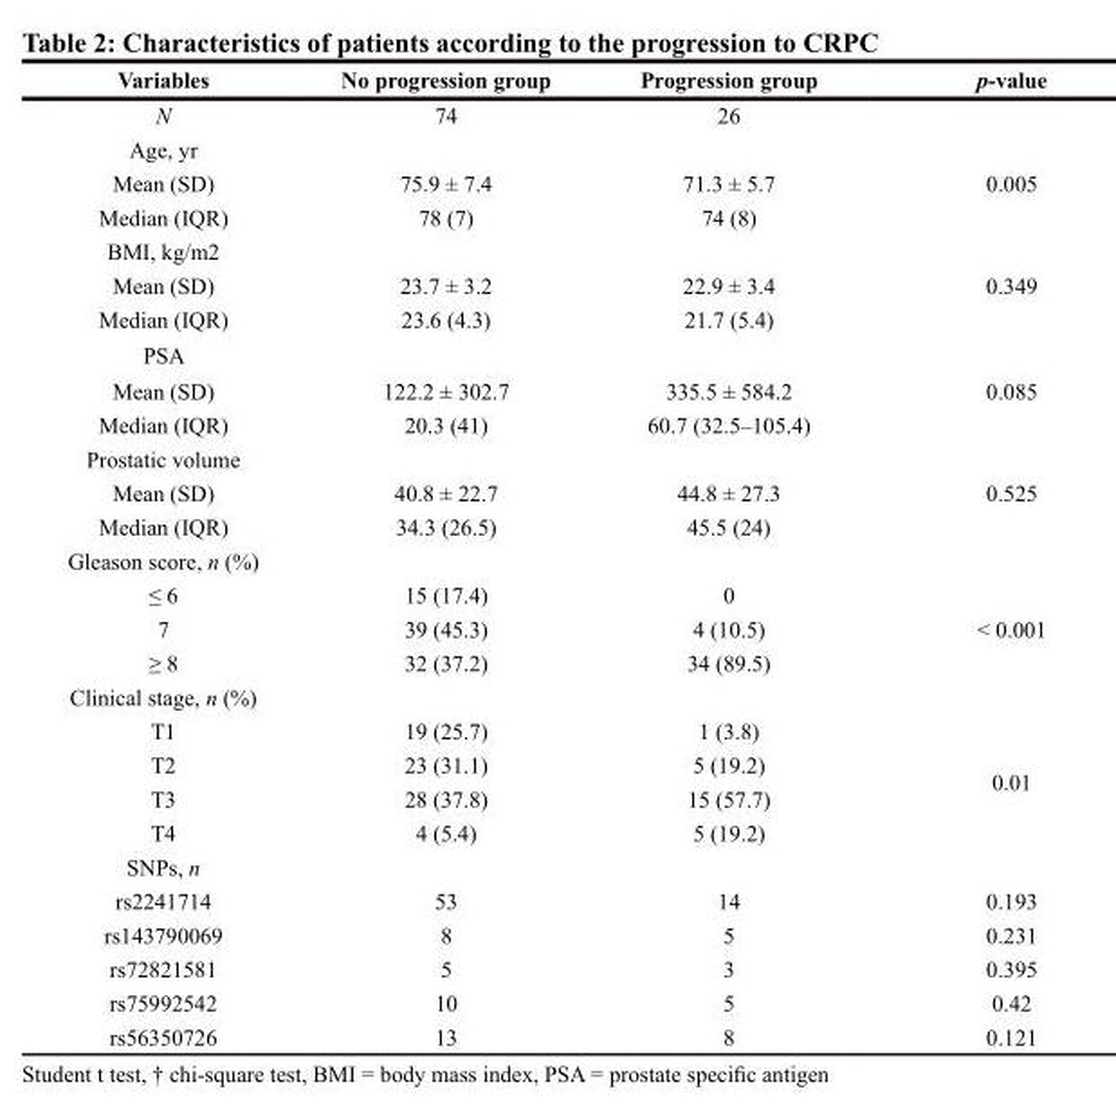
<table><thead><tr><td>Variables</td><td>No progression group</td><td>Progression group</td><td>p-value</td></tr></thead><tbody><tr><td>N</td><td>74</td><td>26</td><td></td></tr><tr><td colspan="4">Age, yr</td></tr><tr><td>Mean (SD)</td><td>75.9 ± 7.4</td><td>71.3 ± 5.7</td><td>0.005</td></tr><tr><td>Median (IQR)</td><td>78 (7)</td><td>74 (8)</td><td></td></tr><tr><td colspan="4">BMI, kg/m2</td></tr><tr><td>Mean (SD)</td><td>23.7 ± 3.2</td><td>22.9 ± 3.4</td><td>0.349</td></tr><tr><td>Median (IQR)</td><td>23.6 (4.3)</td><td>21.7 (5.4)</td><td></td></tr><tr><td colspan="4">PSA</td></tr><tr><td>Mean (SD)</td><td>122.2 ± 302.7</td><td>335.5 ± 584.2</td><td>0.085</td></tr><tr><td>Median (IQR)</td><td>20.3 (41)</td><td>60.7 (32.5–105.4)</td><td></td></tr><tr><td colspan="4">Prostatic volume</td></tr><tr><td>Mean (SD)</td><td>40.8 ± 22.7</td><td>44.8 ± 27.3</td><td>0.525</td></tr><tr><td>Median (IQR)</td><td>34.3 (26.5)</td><td>45.5 (24)</td><td></td></tr><tr><td colspan="4">Gleason score, n (%)</td></tr><tr><td>≤ 6</td><td>15 (17.4)</td><td>0</td><td rowspan="3">&lt; 0.001</td></tr><tr><td>7</td><td>39 (45.3)</td><td>4 (10.5)</td></tr><tr><td>≥ 8</td><td>32 (37.2)</td><td>34 (89.5)</td></tr><tr><td colspan="4">Clinical stage, n (%)</td></tr><tr><td>T1</td><td>19 (25.7)</td><td>1 (3.8)</td><td rowspan="4">0.01</td></tr><tr><td>T2</td><td>23 (31.1)</td><td>5 (19.2)</td></tr><tr><td>T3</td><td>28 (37.8)</td><td>15 (57.7)</td></tr><tr><td>T4</td><td>4 (5.4)</td><td>5 (19.2)</td></tr><tr><td colspan="4">SNPs, n</td></tr><tr><td>rs2241714</td><td>53</td><td>14</td><td>0.193</td></tr><tr><td>rs143790069</td><td>8</td><td>5</td><td>0.231</td></tr><tr><td>rs72821581</td><td>5</td><td>3</td><td>0.395</td></tr><tr><td>rs75992542</td><td>10</td><td>5</td><td>0.42</td></tr><tr><td>rs56350726</td><td>13</td><td>8</td><td>0.121</td></tr></tbody></table>